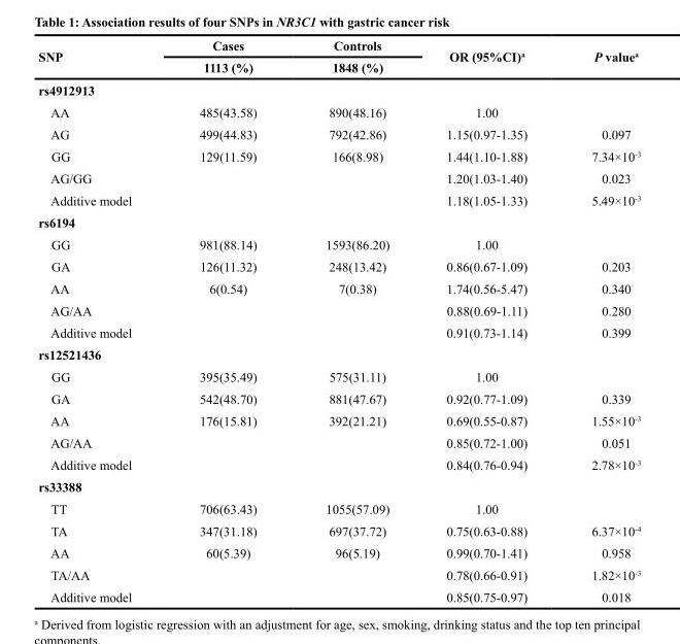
<table><thead><tr><td rowspan="2">SNP</td><td rowspan="2">Cases 1113 (%)</td><td rowspan="2">Controls 1848 (%)</td><td rowspan="2">OR (95%CI)<sup>a</sup></td><td rowspan="2">P value<sup>a</sup></td></tr><tr></tr></thead><tbody><tr><td colspan="5">rs4912913</td></tr><tr><td>AA</td><td>485(43.58)</td><td>890(48.16)</td><td>1.00</td><td></td></tr><tr><td>AG</td><td>499(44.83)</td><td>792(42.86)</td><td>1.15(0.97-1.35)</td><td>0.097</td></tr><tr><td>GG</td><td>129(11.59)</td><td>166(8.98)</td><td>1.44(1.10-1.88)</td><td>7.34×10<sup>-3</sup></td></tr><tr><td>AG/GG</td><td></td><td></td><td>1.20(1.03-1.40)</td><td>0.023</td></tr><tr><td>Additive model</td><td></td><td></td><td>1.18(1.05-1.33)</td><td>5.49×10<sup>-3</sup></td></tr><tr><td colspan="5">rs6194</td></tr><tr><td>GG</td><td>981(88.14)</td><td>1593(86.20)</td><td>1.00</td><td></td></tr><tr><td>GA</td><td>126(11.32)</td><td>248(13.42)</td><td>0.86(0.67-1.09)</td><td>0.203</td></tr><tr><td>AA</td><td>6(0.54)</td><td>7(0.38)</td><td>1.74(0.56-5.47)</td><td>0.340</td></tr><tr><td>AG/AA</td><td></td><td></td><td>0.88(0.69-1.11)</td><td>0.280</td></tr><tr><td>Additive model</td><td></td><td></td><td>0.91(0.73-1.14)</td><td>0.399</td></tr><tr><td colspan="5">rs12521436</td></tr><tr><td>GG</td><td>395(35.49)</td><td>575(31.11)</td><td>1.00</td><td></td></tr><tr><td>GA</td><td>542(48.70)</td><td>881(47.67)</td><td>0.92(0.77-1.09)</td><td>0.339</td></tr><tr><td>AA</td><td>176(15.81)</td><td>392(21.21)</td><td>0.69(0.55-0.87)</td><td>1.55×10<sup>-3</sup></td></tr><tr><td>AG/AA</td><td></td><td></td><td>0.85(0.72-1.00)</td><td>0.051</td></tr><tr><td>Additive model</td><td></td><td></td><td>0.84(0.76-0.94)</td><td>2.78×10<sup>-3</sup></td></tr><tr><td colspan="5">rs33388</td></tr><tr><td>TT</td><td>706(63.43)</td><td>1055(57.09)</td><td>1.00</td><td></td></tr><tr><td>TA</td><td>347(31.18)</td><td>697(37.72)</td><td>0.75(0.63-0.88)</td><td>6.37×10<sup>-4</sup></td></tr><tr><td>AA</td><td>60(5.39)</td><td>96(5.19)</td><td>0.99(0.70-1.41)</td><td>0.958</td></tr><tr><td>TA/AA</td><td></td><td></td><td>0.78(0.66-0.91)</td><td>1.82×10<sup>-3</sup></td></tr><tr><td>Additive model</td><td></td><td></td><td>0.85(0.75-0.97)</td><td>0.018</td></tr></tbody></table>